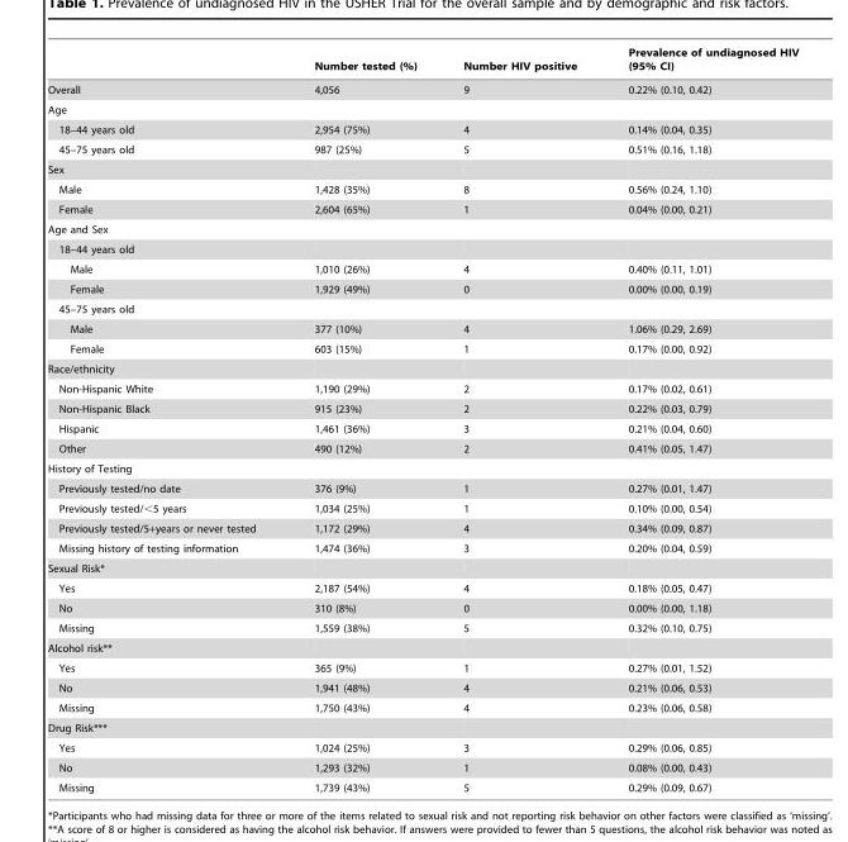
<table><thead><tr><td></td><td>Number tested (%)</td><td>Number HIV positive</td><td>Prevalence of undiagnosed HIV (95% CI)</td></tr></thead><tbody><tr><td>Overall</td><td>4,056</td><td>9</td><td>0.22% (0.10, 0.42)</td></tr><tr><td colspan="4">Age</td></tr><tr><td>18–44 years old</td><td>2,954 (75%)</td><td>4</td><td>0.14% (0.04, 0.35)</td></tr><tr><td>45–75 years old</td><td>987 (25%)</td><td>5</td><td>0.51% (0.16, 1.18)</td></tr><tr><td colspan="4">Sex</td></tr><tr><td>Male</td><td>1,428 (35%)</td><td>8</td><td>0.56% (0.24, 1.10)</td></tr><tr><td>Female</td><td>2,604 (65%)</td><td>1</td><td>0.04% (0.00, 0.21)</td></tr><tr><td colspan="4">Age and Sex</td></tr><tr><td colspan="4">18–44 years old</td></tr><tr><td>Male</td><td>1,010 (26%)</td><td>4</td><td>0.40% (0.11, 1.01)</td></tr><tr><td>Female</td><td>1,929 (49%)</td><td>0</td><td>0.00% (0.00, 0.19)</td></tr><tr><td colspan="4">45–75 years old</td></tr><tr><td>Male</td><td>377 (10%)</td><td>4</td><td>1.06% (0.29, 2.69)</td></tr><tr><td>Female</td><td>603 (15%)</td><td>1</td><td>0.17% (0.00, 0.92)</td></tr><tr><td colspan="4">Race/ethnicity</td></tr><tr><td>Non-Hispanic White</td><td>1,190 (29%)</td><td>2</td><td>0.17% (0.02, 0.61)</td></tr><tr><td>Non-Hispanic Black</td><td>915 (23%)</td><td>2</td><td>0.22% (0.03, 0.79)</td></tr><tr><td>Hispanic</td><td>1,461 (36%)</td><td>3</td><td>0.21% (0.04, 0.60)</td></tr><tr><td>Other</td><td>490 (12%)</td><td>2</td><td>0.41% (0.05, 1.47)</td></tr><tr><td colspan="4">History of Testing</td></tr><tr><td>Previously tested/no date</td><td>376 (9%)</td><td>1</td><td>0.27% (0.01, 1.47)</td></tr><tr><td>Previously tested/&lt;5 years</td><td>1,034 (25%)</td><td>1</td><td>0.10% (0.00, 0.54)</td></tr><tr><td>Previously tested/5+years or never tested</td><td>1,172 (29%)</td><td>4</td><td>0.34% (0.09, 0.87)</td></tr><tr><td>Missing history of testing information</td><td>1,474 (36%)</td><td>3</td><td>0.20% (0.04, 0.59)</td></tr><tr><td colspan="4">Sexual Risk*</td></tr><tr><td>Yes</td><td>2,187 (54%)</td><td>4</td><td>0.18% (0.05, 0.47)</td></tr><tr><td>No</td><td>310 (8%)</td><td>0</td><td>0.00% (0.00, 1.18)</td></tr><tr><td>Missing</td><td>1,559 (38%)</td><td>5</td><td>0.32% (0.10, 0.75)</td></tr><tr><td colspan="4">Alcohol risk**</td></tr><tr><td>Yes</td><td>365 (9%)</td><td>1</td><td>0.27% (0.01, 1.52)</td></tr><tr><td>No</td><td>1,941 (48%)</td><td>4</td><td>0.21% (0.06, 0.53)</td></tr><tr><td>Missing</td><td>1,750 (43%)</td><td>4</td><td>0.23% (0.06, 0.58)</td></tr><tr><td colspan="4">Drug Risk***</td></tr><tr><td>Yes</td><td>1,024 (25%)</td><td>3</td><td>0.29% (0.06, 0.85)</td></tr><tr><td>No</td><td>1,293 (32%)</td><td>1</td><td>0.08% (0.00, 0.43)</td></tr><tr><td>Missing</td><td>1,739 (43%)</td><td>5</td><td>0.29% (0.09, 0.67)</td></tr></tbody></table>